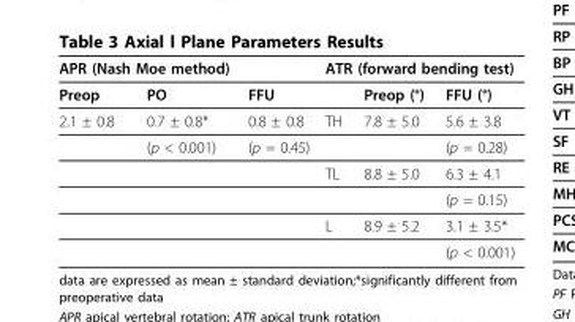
<table><thead><tr><td colspan="2">APR (Nash Moe method)</td><td rowspan="2">FFU</td><td colspan="3">ATR (forward bending test)</td></tr><tr><td>Preop</td><td>PO</td><td></td><td>Preop (°)</td><td>FFU (°)</td></tr></thead><tbody><tr><td rowspan="6">2.1 ± 0.8</td><td>0.7 ± 0.8*</td><td>0.8 ± 0.8</td><td>TH</td><td>7.8 ± 5.0</td><td>5.6 ± 3.8</td></tr><tr><td>(p &lt; 0.001)</td><td>(p = 0.45)</td><td></td><td></td><td>(p = 0.28)</td></tr><tr><td></td><td></td><td>TL</td><td>8.8 ± 5.0</td><td>6.3 ± 4.1</td></tr><tr><td></td><td></td><td></td><td></td><td>(p = 0.15)</td></tr><tr><td></td><td></td><td>L</td><td>8.9 ± 5.2</td><td>3.1 ± 3.5*</td></tr><tr><td></td><td></td><td></td><td></td><td>(p &lt; 0.001)</td></tr></tbody></table>